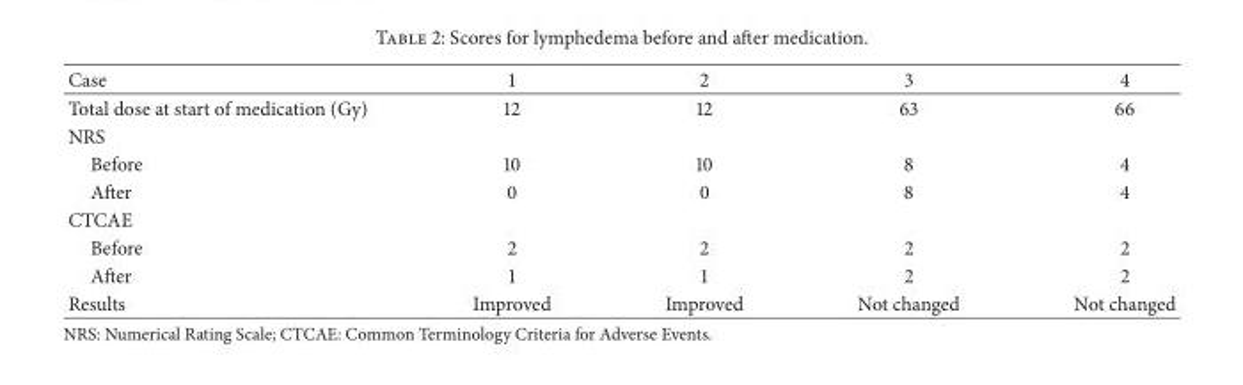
<table><thead><tr><td>Case</td><td>1</td><td>2</td><td>3</td><td>4</td></tr></thead><tbody><tr><td>Total dose at start of medication (Gy)</td><td>12</td><td>12</td><td>63</td><td>66</td></tr><tr><td colspan="5">NRS</td></tr><tr><td>Before</td><td>10</td><td>10</td><td>8</td><td>4</td></tr><tr><td>After</td><td>0</td><td>0</td><td>8</td><td>4</td></tr><tr><td colspan="5">CTCAE</td></tr><tr><td>Before</td><td>2</td><td>2</td><td>2</td><td>2</td></tr><tr><td>After</td><td>1</td><td>1</td><td>2</td><td>2</td></tr><tr><td>Results</td><td>Improved</td><td>Improved</td><td>Not changed</td><td>Not changed</td></tr></tbody></table>